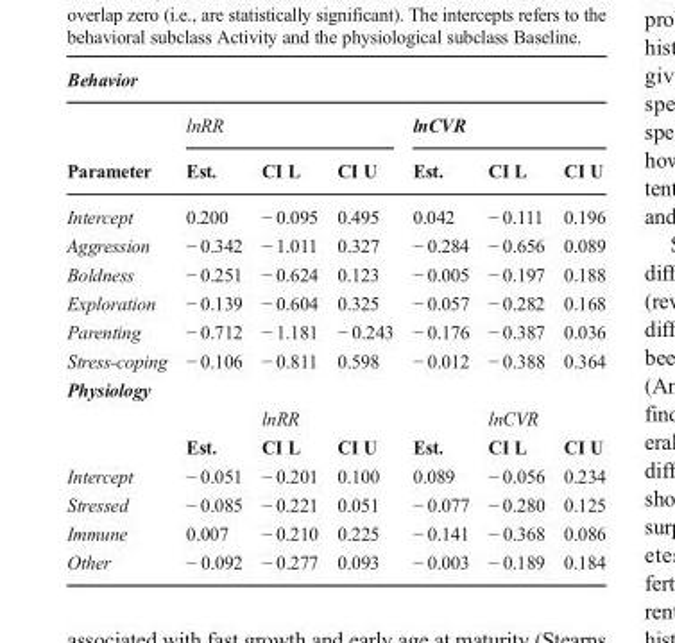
<table><thead><tr><td colspan="7">Behavior</td></tr><tr><td rowspan="2">Parameter</td><td colspan="3">lnRR</td><td colspan="3">lnCVR</td></tr><tr><td>Est.</td><td>CI L</td><td>CI U</td><td>Est.</td><td>CI L</td><td>CI U</td></tr></thead><tbody><tr><td>Intercept</td><td>0.200</td><td>− 0.095</td><td>0.495</td><td>0.042</td><td>− 0.111</td><td>0.196</td></tr><tr><td>Aggression</td><td>− 0.342</td><td>− 1.011</td><td>0.327</td><td>− 0.284</td><td>− 0.656</td><td>0.089</td></tr><tr><td>Boldness</td><td>− 0.251</td><td>− 0.624</td><td>0.123</td><td>− 0.005</td><td>− 0.197</td><td>0.188</td></tr><tr><td>Exploration</td><td>− 0.139</td><td>− 0.604</td><td>0.325</td><td>− 0.057</td><td>− 0.282</td><td>0.168</td></tr><tr><td>Parenting</td><td>− 0.712</td><td>− 1.181</td><td>− 0.243</td><td>− 0.176</td><td>− 0.387</td><td>0.036</td></tr><tr><td>Stress-coping</td><td>− 0.106</td><td>− 0.811</td><td>0.598</td><td>− 0.012</td><td>− 0.388</td><td>0.364</td></tr><tr><td colspan="7">Physiology</td></tr><tr><td></td><td></td><td>lnRR</td><td></td><td></td><td>lnCVR</td><td></td></tr><tr><td></td><td>Est.</td><td>CI L</td><td>CI U</td><td>Est.</td><td>CI L</td><td>CI U</td></tr><tr><td>Intercept</td><td>− 0.051</td><td>− 0.201</td><td>0.100</td><td>0.089</td><td>− 0.056</td><td>0.234</td></tr><tr><td>Stressed</td><td>− 0.085</td><td>− 0.221</td><td>0.051</td><td>− 0.077</td><td>− 0.280</td><td>0.125</td></tr><tr><td>Immune</td><td>0.007</td><td>− 0.210</td><td>0.225</td><td>− 0.141</td><td>− 0.368</td><td>0.086</td></tr><tr><td>Other</td><td>− 0.092</td><td>− 0.277</td><td>0.093</td><td>− 0.003</td><td>− 0.189</td><td>0.184</td></tr></tbody></table>